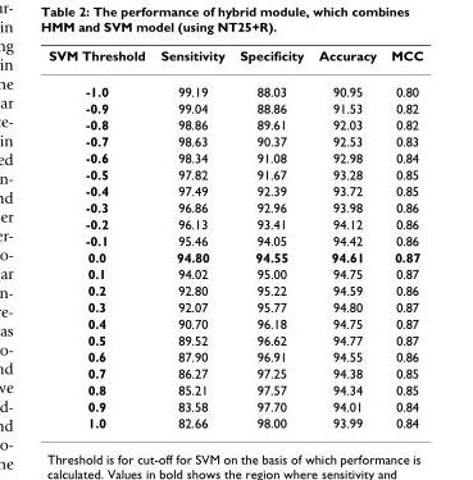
<table><thead><tr><td>SVM Threshold</td><td>Sensitivity</td><td>Specificity</td><td>Accuracy</td><td>MCC</td></tr></thead><tbody><tr><td>-1.0</td><td>99.19</td><td>88.03</td><td>90.95</td><td>0.80</td></tr><tr><td>-0.9</td><td>99.04</td><td>88.86</td><td>91.53</td><td>0.82</td></tr><tr><td>-0.8</td><td>98.86</td><td>89.61</td><td>92.03</td><td>0.82</td></tr><tr><td>-0.7</td><td>98.63</td><td>90.37</td><td>92.53</td><td>0.83</td></tr><tr><td>-0.6</td><td>98.34</td><td>91.08</td><td>92.98</td><td>0.84</td></tr><tr><td>-0.5</td><td>97.82</td><td>91.67</td><td>93.28</td><td>0.85</td></tr><tr><td>-0.4</td><td>97.49</td><td>92.39</td><td>93.72</td><td>0.85</td></tr><tr><td>-0.3</td><td>96.86</td><td>92.96</td><td>93.98</td><td>0.86</td></tr><tr><td>-0.2</td><td>96.13</td><td>93.41</td><td>94.12</td><td>0.86</td></tr><tr><td>-0.1</td><td>95.46</td><td>94.05</td><td>94.42</td><td>0.86</td></tr><tr><td>0.0</td><td>94.80</td><td>94.55</td><td>94.61</td><td>0.87</td></tr><tr><td>0.1</td><td>94.02</td><td>95.00</td><td>94.75</td><td>0.87</td></tr><tr><td>0.2</td><td>92.80</td><td>95.22</td><td>94.59</td><td>0.86</td></tr><tr><td>0.3</td><td>92.07</td><td>95.77</td><td>94.80</td><td>0.87</td></tr><tr><td>0.4</td><td>90.70</td><td>96.18</td><td>94.75</td><td>0.87</td></tr><tr><td>0.5</td><td>89.52</td><td>96.62</td><td>94.77</td><td>0.87</td></tr><tr><td>0.6</td><td>87.90</td><td>96.91</td><td>94.55</td><td>0.86</td></tr><tr><td>0.7</td><td>86.27</td><td>97.25</td><td>94.38</td><td>0.85</td></tr><tr><td>0.8</td><td>85.21</td><td>97.57</td><td>94.34</td><td>0.85</td></tr><tr><td>0.9</td><td>83.58</td><td>97.70</td><td>94.01</td><td>0.84</td></tr><tr><td>1.0</td><td>82.66</td><td>98.00</td><td>93.99</td><td>0.84</td></tr></tbody></table>